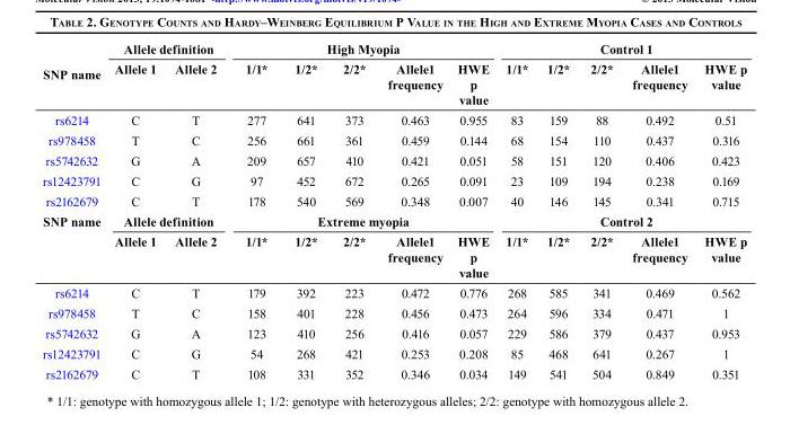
<table><thead><tr><td rowspan="2">SNP name</td><td colspan="2">Allele definition</td><td colspan="5">High Myopia</td><td colspan="5">Control 1</td></tr><tr><td>Allele 1</td><td>Allele 2</td><td>1/1*</td><td>1/2*</td><td>2/2*</td><td>Allele1 frequency</td><td>HWE p value</td><td>1/1*</td><td>1/2*</td><td>2/2*</td><td>Allele1 frequency</td><td>HWE p value</td></tr></thead><tbody><tr><td>rs6214</td><td>C</td><td>T</td><td>277</td><td>641</td><td>373</td><td>0.463</td><td>0.955</td><td>83</td><td>159</td><td>88</td><td>0.492</td><td>0.51</td></tr><tr><td>rs978458</td><td>T</td><td>C</td><td>256</td><td>661</td><td>361</td><td>0.459</td><td>0.144</td><td>68</td><td>154</td><td>110</td><td>0.437</td><td>0.316</td></tr><tr><td>rs5742632</td><td>G</td><td>A</td><td>209</td><td>657</td><td>410</td><td>0.421</td><td>0.051</td><td>58</td><td>151</td><td>120</td><td>0.406</td><td>0.423</td></tr><tr><td>rs12423791</td><td>C</td><td>G</td><td>97</td><td>452</td><td>672</td><td>0.265</td><td>0.091</td><td>23</td><td>109</td><td>194</td><td>0.238</td><td>0.169</td></tr><tr><td>rs2162679</td><td>C</td><td>T</td><td>178</td><td>540</td><td>569</td><td>0.348</td><td>0.007</td><td>40</td><td>146</td><td>145</td><td>0.341</td><td>0.715</td></tr><tr><td rowspan="2">SNP name</td><td colspan="2">Allele definition</td><td colspan="5">Extreme myopia</td><td colspan="5">Control 2</td></tr><tr><td>Allele 1</td><td>Allele 2</td><td>1/1*</td><td>1/2*</td><td>2/2*</td><td>Allele1 frequency</td><td>HWE p value</td><td>1/1*</td><td>1/2*</td><td>2/2*</td><td>Allele1 frequency</td><td>HWE p value</td></tr><tr><td>rs6214</td><td>C</td><td>T</td><td>179</td><td>392</td><td>223</td><td>0.472</td><td>0.776</td><td>268</td><td>585</td><td>341</td><td>0.469</td><td>0.562</td></tr><tr><td>rs978458</td><td>T</td><td>C</td><td>158</td><td>401</td><td>228</td><td>0.456</td><td>0.473</td><td>264</td><td>596</td><td>334</td><td>0.471</td><td>1</td></tr><tr><td>rs5742632</td><td>G</td><td>A</td><td>123</td><td>410</td><td>256</td><td>0.416</td><td>0.057</td><td>229</td><td>586</td><td>379</td><td>0.437</td><td>0.953</td></tr><tr><td>rs12423791</td><td>C</td><td>G</td><td>54</td><td>268</td><td>421</td><td>0.253</td><td>0.208</td><td>85</td><td>468</td><td>641</td><td>0.267</td><td>1</td></tr><tr><td>rs2162679</td><td>C</td><td>T</td><td>108</td><td>331</td><td>352</td><td>0.346</td><td>0.034</td><td>149</td><td>541</td><td>504</td><td>0.849</td><td>0.351</td></tr></tbody></table>